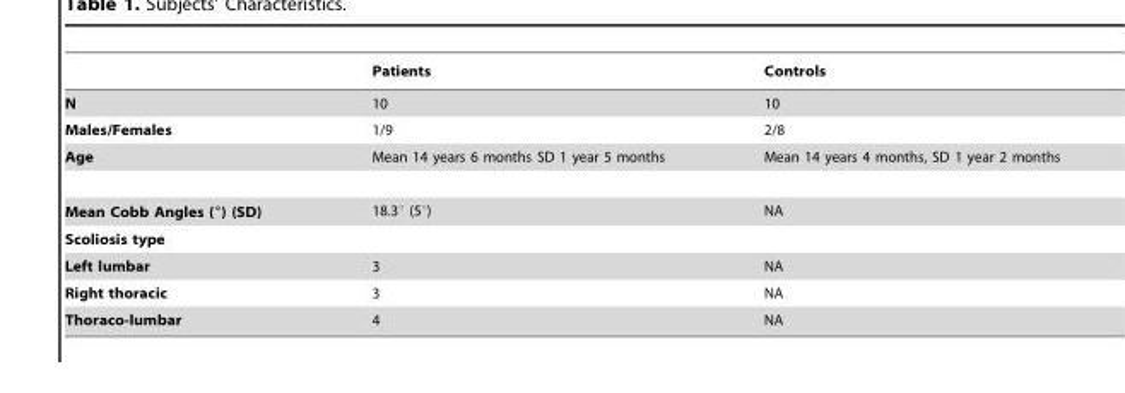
<table><thead><tr><td></td><td>Patients</td><td>Controls</td></tr></thead><tbody><tr><td>N</td><td>10</td><td>10</td></tr><tr><td>Males/Females</td><td>1/9</td><td>2/8</td></tr><tr><td>Age</td><td>Mean 14 years 6 months SD 1 year 5 months</td><td>Mean 14 years 4 months, SD 1 year 2 months</td></tr><tr><td>Mean Cobb Angles (°) (SD)</td><td>18.3° (5°)</td><td>NA</td></tr><tr><td colspan="3">Scoliosis type</td></tr><tr><td>Left lumbar</td><td>3</td><td>NA</td></tr><tr><td>Right thoracic</td><td>3</td><td>NA</td></tr><tr><td>Thoraco-lumbar</td><td>4</td><td>NA</td></tr></tbody></table>